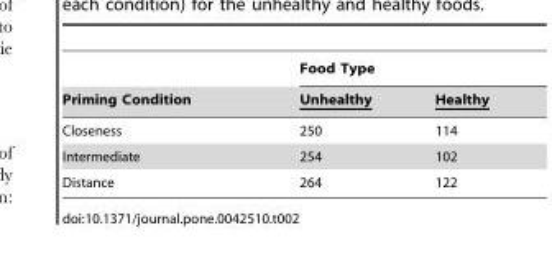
<table><thead><tr><td rowspan="2">Priming Condition</td><td colspan="2">Food Type</td></tr><tr><td>Unhealthy</td><td>Healthy</td></tr></thead><tbody><tr><td>Closeness</td><td>250</td><td>114</td></tr><tr><td>Intermediate</td><td>254</td><td>102</td></tr><tr><td>Distance</td><td>264</td><td>122</td></tr></tbody></table>